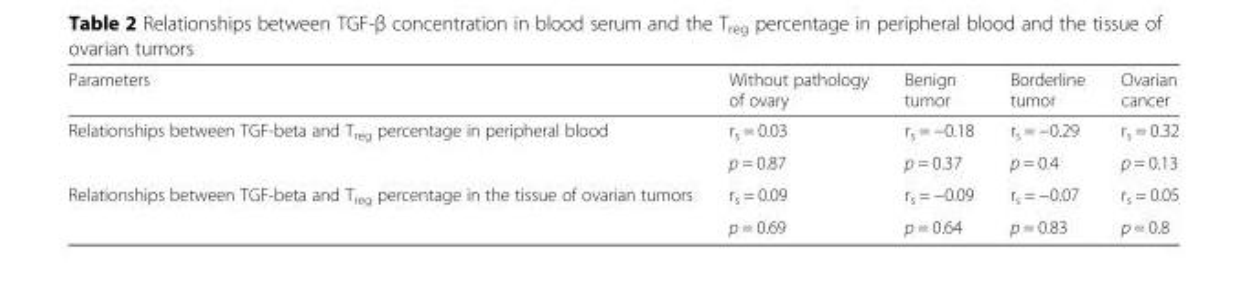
<table><thead><tr><td>Parameters</td><td>Without pathology of ovary</td><td>Benign tumor</td><td>Borderline tumor</td><td>Ovarian cancer</td></tr></thead><tbody><tr><td rowspan="2">Relationships between TGF-beta and T<sub>reg</sub> percentage in peripheral blood</td><td>r<sub>s</sub> = 0.03</td><td>r<sub>s</sub> = −0.18</td><td>r<sub>s</sub> = −0.29</td><td>r<sub>s</sub> = 0.32</td></tr><tr><td>p = 0.87</td><td>p = 0.37</td><td>p = 0.4</td><td>p = 0.13</td></tr><tr><td rowspan="2">Relationships between TGF-beta and T<sub>reg</sub> percentage in the tissue of ovarian tumors</td><td>r<sub>s</sub> = 0.09</td><td>r<sub>s</sub> = −0.09</td><td>r<sub>s</sub> = −0.07</td><td>r<sub>s</sub> = 0.05</td></tr><tr><td>p = 0.69</td><td>p = 0.64</td><td>p = 0.83</td><td>p = 0.8</td></tr></tbody></table>